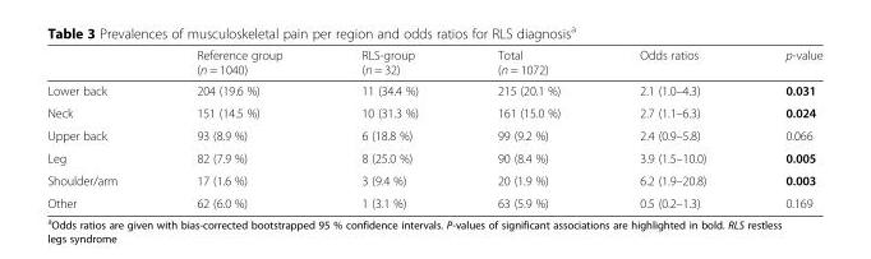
<table><thead><tr><td></td><td>Reference group (n = 1040)</td><td>RLS-group (n = 32)</td><td>Total (n = 1072)</td><td>Odds ratios</td><td>p-value</td></tr></thead><tbody><tr><td>Lower back</td><td>204 (19.6 %)</td><td>11 (34.4 %)</td><td>215 (20.1 %)</td><td>2.1 (1.0–4.3)</td><td>0.031</td></tr><tr><td>Neck</td><td>151 (14.5 %)</td><td>10 (31.3 %)</td><td>161 (15.0 %)</td><td>2.7 (1.1–6.3)</td><td>0.024</td></tr><tr><td>Upper back</td><td>93 (8.9 %)</td><td>6 (18.8 %)</td><td>99 (9.2 %)</td><td>2.4 (0.9–5.8)</td><td>0.066</td></tr><tr><td>Leg</td><td>82 (7.9 %)</td><td>8 (25.0 %)</td><td>90 (8.4 %)</td><td>3.9 (1.5–10.0)</td><td>0.005</td></tr><tr><td>Shoulder/arm</td><td>17 (1.6 %)</td><td>3 (9.4 %)</td><td>20 (1.9 %)</td><td>6.2 (1.9–20.8)</td><td>0.003</td></tr><tr><td>Other</td><td>62 (6.0 %)</td><td>1 (3.1 %)</td><td>63 (5.9 %)</td><td>0.5 (0.2–1.3)</td><td>0.169</td></tr></tbody></table>